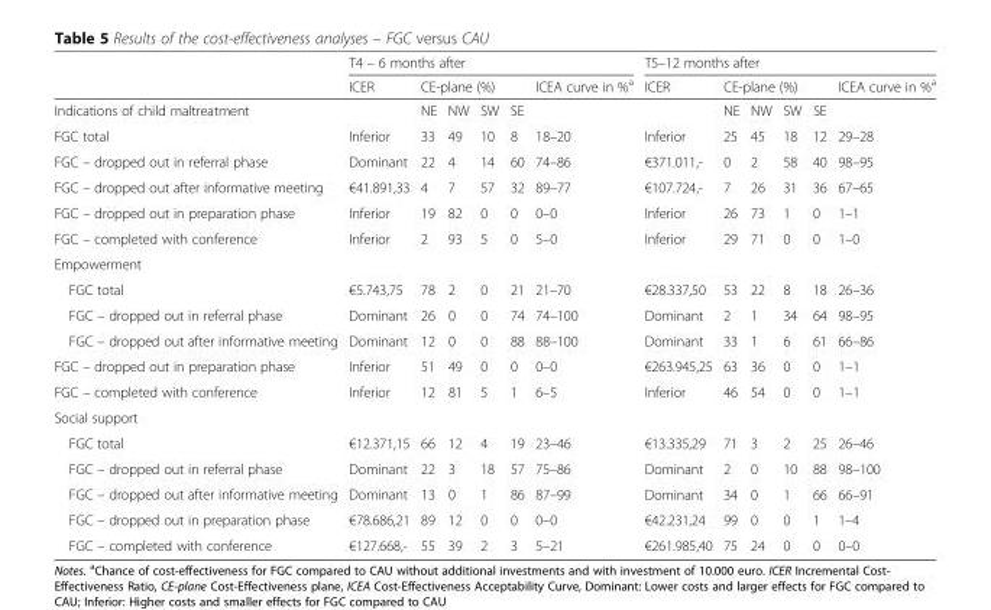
<table><thead><tr><td rowspan="3">Indications of child maltreatment</td><td colspan="6">T4 – 6 months after</td><td colspan="6">T5–12 months after</td></tr><tr><td rowspan="2">ICER</td><td colspan="4">CE-plane (%)</td><td rowspan="2">ICEA curve in %<sup>a</sup></td><td rowspan="2">ICER</td><td colspan="4">CE-plane (%)</td><td rowspan="2">ICEA curve in %<sup>a</sup></td></tr><tr><td>NE</td><td>NW</td><td>SW</td><td>SE</td><td>NE</td><td>NW</td><td>SW</td><td>SE</td></tr></thead><tbody><tr><td>FGC total</td><td>Inferior</td><td>33</td><td>49</td><td>10</td><td>8</td><td>18–20</td><td>Inferior</td><td>25</td><td>45</td><td>18</td><td>12</td><td>29–28</td></tr><tr><td>FGC – dropped out in referral phase</td><td>Dominant</td><td>22</td><td>4</td><td>14</td><td>60</td><td>74–86</td><td>€371.011,-</td><td>0</td><td>2</td><td>58</td><td>40</td><td>98–95</td></tr><tr><td>FGC – dropped out after informative meeting</td><td>€41.891,33</td><td>4</td><td>7</td><td>57</td><td>32</td><td>89–77</td><td>€107.724,-</td><td>7</td><td>26</td><td>31</td><td>36</td><td>67–65</td></tr><tr><td>FGC – dropped out in preparation phase</td><td>Inferior</td><td>19</td><td>82</td><td>0</td><td>0</td><td>0–0</td><td>Inferior</td><td>26</td><td>73</td><td>1</td><td>0</td><td>1–1</td></tr><tr><td>FGC – completed with conference</td><td>Inferior</td><td>2</td><td>93</td><td>5</td><td>0</td><td>5–0</td><td>Inferior</td><td>29</td><td>71</td><td>0</td><td>0</td><td>1–0</td></tr><tr><td colspan="13">Empowerment</td></tr><tr><td>FGC total</td><td>€5.743,75</td><td>78</td><td>2</td><td>0</td><td>21</td><td>21–70</td><td>€28.337,50</td><td>53</td><td>22</td><td>8</td><td>18</td><td>26–36</td></tr><tr><td>FGC – dropped out in referral phase</td><td>Dominant</td><td>26</td><td>0</td><td>0</td><td>74</td><td>74–100</td><td>Dominant</td><td>2</td><td>1</td><td>34</td><td>64</td><td>98–95</td></tr><tr><td>FGC – dropped out after informative meeting</td><td>Dominant</td><td>12</td><td>0</td><td>0</td><td>88</td><td>88–100</td><td>Dominant</td><td>33</td><td>1</td><td>6</td><td>61</td><td>66–86</td></tr><tr><td>FGC – dropped out in preparation phase</td><td>Inferior</td><td>51</td><td>49</td><td>0</td><td>0</td><td>0–0</td><td>€263.945,25</td><td>63</td><td>36</td><td>0</td><td>0</td><td>1–1</td></tr><tr><td>FGC – completed with conference</td><td>Inferior</td><td>12</td><td>81</td><td>5</td><td>1</td><td>6–5</td><td>Inferior</td><td>46</td><td>54</td><td>0</td><td>0</td><td>1–1</td></tr><tr><td colspan="13">Social support</td></tr><tr><td>FGC total</td><td>€12.371,15</td><td>66</td><td>12</td><td>4</td><td>19</td><td>23–46</td><td>€13.335,29</td><td>71</td><td>3</td><td>2</td><td>25</td><td>26–46</td></tr><tr><td>FGC – dropped out in referral phase</td><td>Dominant</td><td>22</td><td>3</td><td>18</td><td>57</td><td>75–86</td><td>Dominant</td><td>2</td><td>0</td><td>10</td><td>88</td><td>98–100</td></tr><tr><td>FGC – dropped out after informative meeting</td><td>Dominant</td><td>13</td><td>0</td><td>1</td><td>86</td><td>87–99</td><td>Dominant</td><td>34</td><td>0</td><td>1</td><td>66</td><td>66–91</td></tr><tr><td>FGC – dropped out in preparation phase</td><td>€78.686,21</td><td>89</td><td>12</td><td>0</td><td>0</td><td>0–0</td><td>€42.231,24</td><td>99</td><td>0</td><td>0</td><td>1</td><td>1–4</td></tr><tr><td>FGC – completed with conference</td><td>€127.668,-</td><td>55</td><td>39</td><td>2</td><td>3</td><td>5–21</td><td>€261.985,40</td><td>75</td><td>24</td><td>0</td><td>0</td><td>0–0</td></tr></tbody></table>